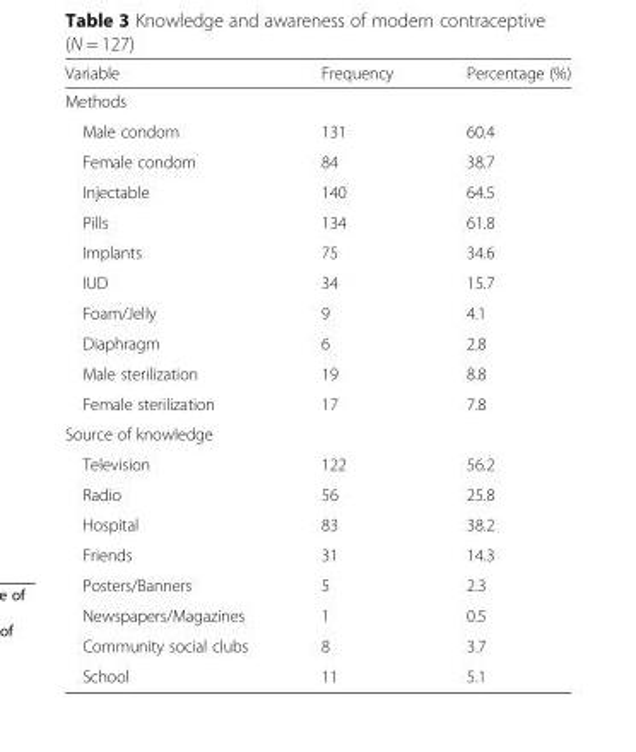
<table><thead><tr><td>Variable</td><td>Frequency</td><td>Percentage (%)</td></tr></thead><tbody><tr><td colspan="3">Methods</td></tr><tr><td>Male condom</td><td>131</td><td>60.4</td></tr><tr><td>Female condom</td><td>84</td><td>38.7</td></tr><tr><td>Injectable</td><td>140</td><td>64.5</td></tr><tr><td>Pills</td><td>134</td><td>61.8</td></tr><tr><td>Implants</td><td>75</td><td>34.6</td></tr><tr><td>IUD</td><td>34</td><td>15.7</td></tr><tr><td>Foam/Jelly</td><td>9</td><td>4.1</td></tr><tr><td>Diaphragm</td><td>6</td><td>2.8</td></tr><tr><td>Male sterilization</td><td>19</td><td>8.8</td></tr><tr><td>Female sterilization</td><td>17</td><td>7.8</td></tr><tr><td colspan="3">Source of knowledge</td></tr><tr><td>Television</td><td>122</td><td>56.2</td></tr><tr><td>Radio</td><td>56</td><td>25.8</td></tr><tr><td>Hospital</td><td>83</td><td>38.2</td></tr><tr><td>Friends</td><td>31</td><td>14.3</td></tr><tr><td>Posters/Banners</td><td>5</td><td>2.3</td></tr><tr><td>Newspapers/Magazines</td><td>1</td><td>0.5</td></tr><tr><td>Community social clubs</td><td>8</td><td>3.7</td></tr><tr><td>School</td><td>11</td><td>5.1</td></tr></tbody></table>